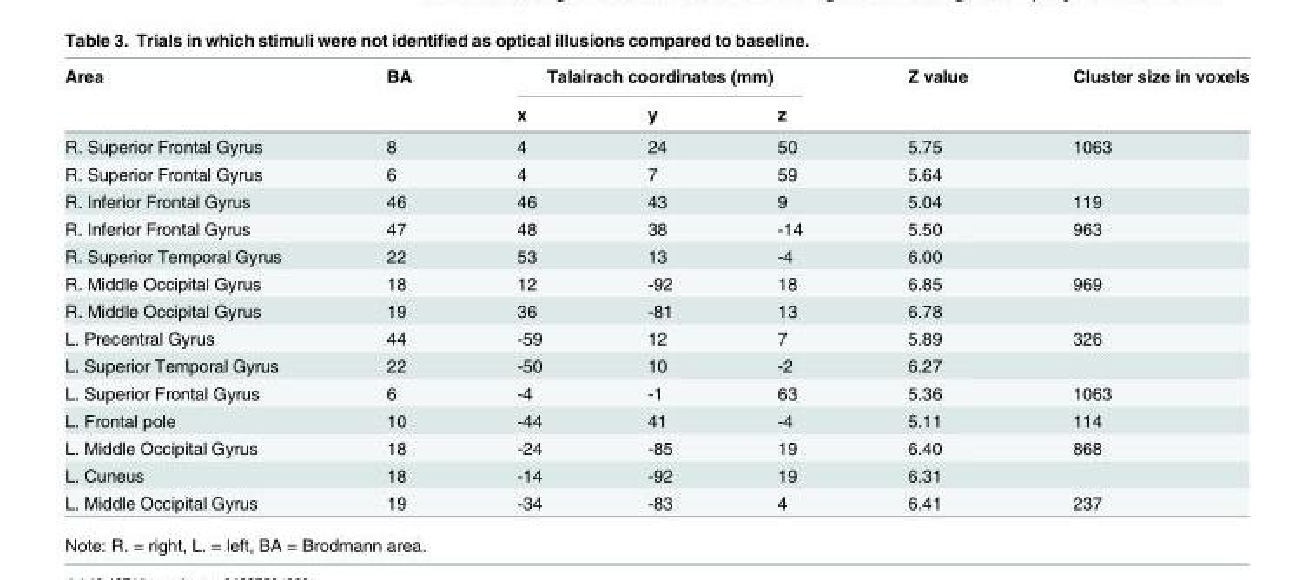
<table><thead><tr><td rowspan="2">Area</td><td rowspan="2">BA</td><td colspan="3">Talairach coordinates (mm)</td><td rowspan="2">Z value</td><td rowspan="2">Cluster size in voxels</td></tr><tr><td>x</td><td>y</td><td>z</td></tr></thead><tbody><tr><td>R. Superior Frontal Gyrus</td><td>8</td><td>4</td><td>24</td><td>50</td><td>5.75</td><td>1063</td></tr><tr><td>R. Superior Frontal Gyrus</td><td>6</td><td>4</td><td>7</td><td>59</td><td>5.64</td><td></td></tr><tr><td>R. Inferior Frontal Gyrus</td><td>46</td><td>46</td><td>43</td><td>9</td><td>5.04</td><td>119</td></tr><tr><td>R. Inferior Frontal Gyrus</td><td>47</td><td>48</td><td>38</td><td>-14</td><td>5.50</td><td>963</td></tr><tr><td>R. Superior Temporal Gyrus</td><td>22</td><td>53</td><td>13</td><td>-4</td><td>6.00</td><td></td></tr><tr><td>R. Middle Occipital Gyrus</td><td>18</td><td>12</td><td>-92</td><td>18</td><td>6.85</td><td>969</td></tr><tr><td>R. Middle Occipital Gyrus</td><td>19</td><td>36</td><td>-81</td><td>13</td><td>6.78</td><td></td></tr><tr><td>L. Precentral Gyrus</td><td>44</td><td>-59</td><td>12</td><td>7</td><td>5.89</td><td>326</td></tr><tr><td>L. Superior Temporal Gyrus</td><td>22</td><td>-50</td><td>10</td><td>-2</td><td>6.27</td><td></td></tr><tr><td>L. Superior Frontal Gyrus</td><td>6</td><td>-4</td><td>-1</td><td>63</td><td>5.36</td><td>1063</td></tr><tr><td>L. Frontal pole</td><td>10</td><td>-44</td><td>41</td><td>-4</td><td>5.11</td><td>114</td></tr><tr><td>L. Middle Occipital Gyrus</td><td>18</td><td>-24</td><td>-85</td><td>19</td><td>6.40</td><td>868</td></tr><tr><td>L. Cuneus</td><td>18</td><td>-14</td><td>-92</td><td>19</td><td>6.31</td><td></td></tr><tr><td>L. Middle Occipital Gyrus</td><td>19</td><td>-34</td><td>-83</td><td>4</td><td>6.41</td><td>237</td></tr></tbody></table>